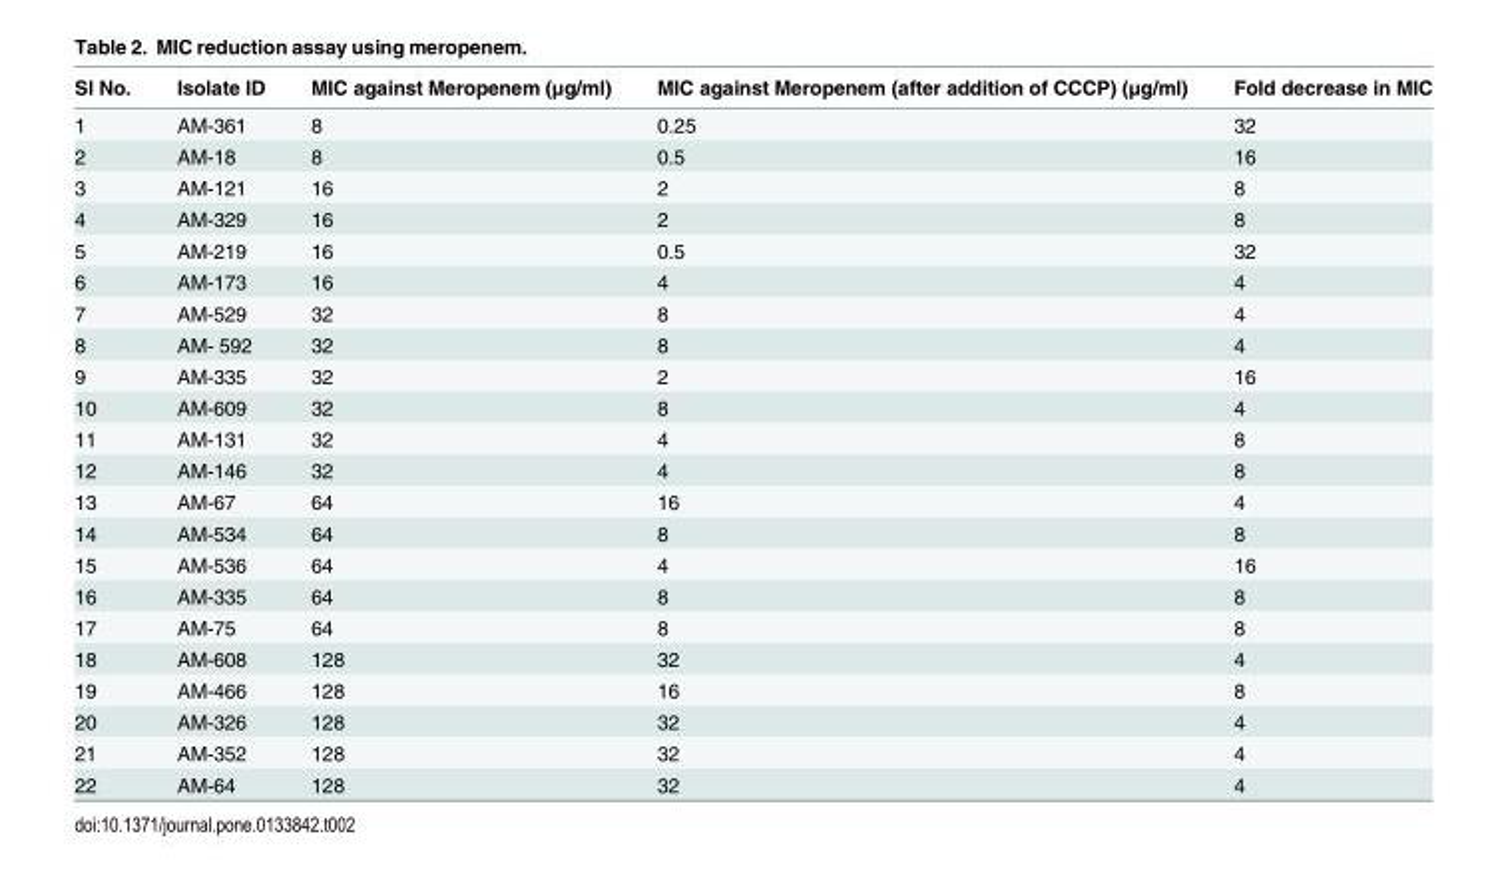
<table><thead><tr><td>Sl No.</td><td>Isolate ID</td><td>MIC against Meropenem (μg/ml)</td><td>MIC against Meropenem (after addition of CCCP) (μg/ml)</td><td>Fold decrease in MIC</td></tr></thead><tbody><tr><td>1</td><td>AM-361</td><td>8</td><td>0.25</td><td>32</td></tr><tr><td>2</td><td>AM-18</td><td>8</td><td>0.5</td><td>16</td></tr><tr><td>3</td><td>AM-121</td><td>16</td><td>2</td><td>8</td></tr><tr><td>4</td><td>AM-329</td><td>16</td><td>2</td><td>8</td></tr><tr><td>5</td><td>AM-219</td><td>16</td><td>0.5</td><td>32</td></tr><tr><td>6</td><td>AM-173</td><td>16</td><td>4</td><td>4</td></tr><tr><td>7</td><td>AM-529</td><td>32</td><td>8</td><td>4</td></tr><tr><td>8</td><td>AM- 592</td><td>32</td><td>8</td><td>4</td></tr><tr><td>9</td><td>AM-335</td><td>32</td><td>2</td><td>16</td></tr><tr><td>10</td><td>AM-609</td><td>32</td><td>8</td><td>4</td></tr><tr><td>11</td><td>AM-131</td><td>32</td><td>4</td><td>8</td></tr><tr><td>12</td><td>AM-146</td><td>32</td><td>4</td><td>8</td></tr><tr><td>13</td><td>AM-67</td><td>64</td><td>16</td><td>4</td></tr><tr><td>14</td><td>AM-534</td><td>64</td><td>8</td><td>8</td></tr><tr><td>15</td><td>AM-536</td><td>64</td><td>4</td><td>16</td></tr><tr><td>16</td><td>AM-335</td><td>64</td><td>8</td><td>8</td></tr><tr><td>17</td><td>AM-75</td><td>64</td><td>8</td><td>8</td></tr><tr><td>18</td><td>AM-608</td><td>128</td><td>32</td><td>4</td></tr><tr><td>19</td><td>AM-466</td><td>128</td><td>16</td><td>8</td></tr><tr><td>20</td><td>AM-326</td><td>128</td><td>32</td><td>4</td></tr><tr><td>21</td><td>AM-352</td><td>128</td><td>32</td><td>4</td></tr><tr><td>22</td><td>AM-64</td><td>128</td><td>32</td><td>4</td></tr></tbody></table>